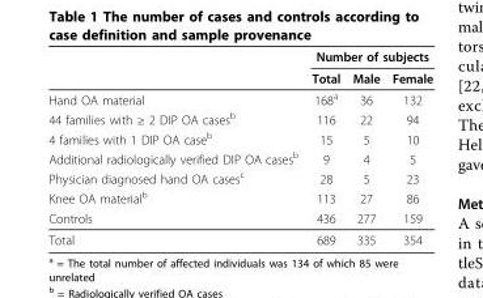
<table><thead><tr><td rowspan="2"></td><td colspan="3">Number of subjects</td></tr><tr><td>Total</td><td>Male</td><td>Female</td></tr></thead><tbody><tr><td>Hand OA material</td><td>168<sup>a</sup></td><td>36</td><td>132</td></tr><tr><td>44 families with ≥ 2 DIP OA cases<sup>b</sup></td><td>116</td><td>22</td><td>94</td></tr><tr><td>4 families with 1 DIP OA case<sup>b</sup></td><td>15</td><td>5</td><td>10</td></tr><tr><td>Additional radiologically verified DIP OA cases<sup>b</sup></td><td>9</td><td>4</td><td>5</td></tr><tr><td>Physician diagnosed hand OA cases<sup>c</sup></td><td>28</td><td>5</td><td>23</td></tr><tr><td>Knee OA material<sup>b</sup></td><td>113</td><td>27</td><td>86</td></tr><tr><td>Controls</td><td>436</td><td>277</td><td>159</td></tr><tr><td>Total</td><td>689</td><td>335</td><td>354</td></tr></tbody></table>